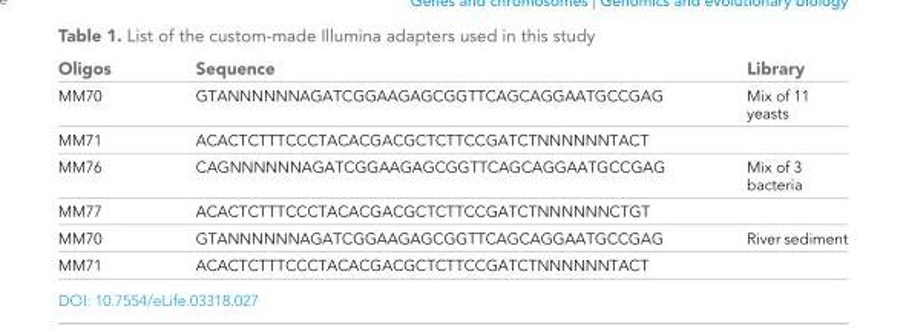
<table><thead><tr><td>Oligos</td><td>Sequence</td><td>Library</td></tr></thead><tbody><tr><td>MM70</td><td>GTANNNNNNAGATCGGAAGAGCGGTTCAGCAGGAATGCCGAG</td><td>Mix of 11 yeasts</td></tr><tr><td>MM71</td><td>ACACTCTTTCCCTACACGACGCTCTTCCGATCTNNNNNNTACT</td><td></td></tr><tr><td>MM76</td><td>CAGNNNNNNAGATCGGAAGAGCGGTTCAGCAGGAATGCCGAG</td><td>Mix of 3 bacteria</td></tr><tr><td>MM77</td><td>ACACTCTTTCCCTACACGACGCTCTTCCGATCTNNNNNNCTGT</td><td></td></tr><tr><td>MM70</td><td>GTANNNNNNAGATCGGAAGAGCGGTTCAGCAGGAATGCCGAG</td><td>River sediment</td></tr><tr><td>MM71</td><td>ACACTCTTTCCCTACACGACGCTCTTCCGATCTNNNNNNTACT</td><td></td></tr></tbody></table>